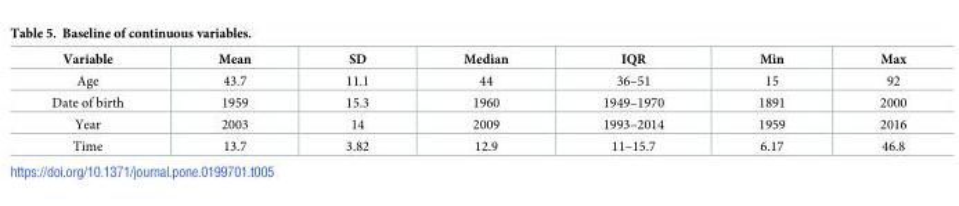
<table><thead><tr><td>Variable</td><td>Mean</td><td>SD</td><td>Median</td><td>IQR</td><td>Min</td><td>Max</td></tr></thead><tbody><tr><td>Age</td><td>43.7</td><td>11.1</td><td>44</td><td>36–51</td><td>15</td><td>92</td></tr><tr><td>Date of birth</td><td>1959</td><td>15.3</td><td>1960</td><td>1949–1970</td><td>1891</td><td>2000</td></tr><tr><td>Year</td><td>2003</td><td>14</td><td>2009</td><td>1993–2014</td><td>1959</td><td>2016</td></tr><tr><td>Time</td><td>13.7</td><td>3.82</td><td>12.9</td><td>11–15.7</td><td>6.17</td><td>46.8</td></tr></tbody></table>